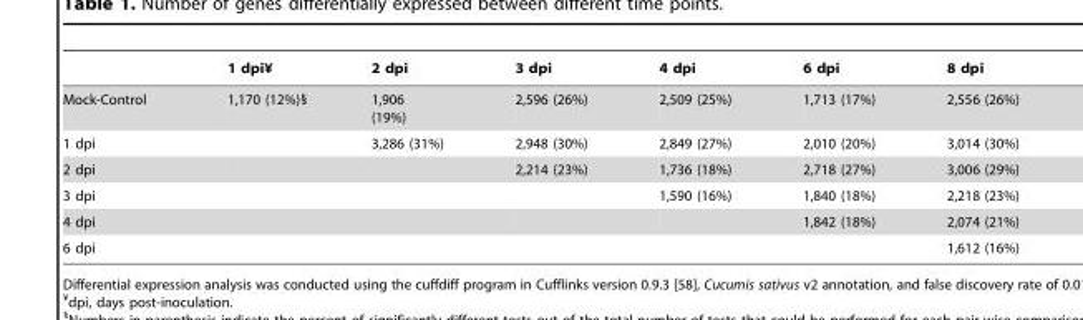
<table><thead><tr><td></td><td>1 dpi¥</td><td>2 dpi</td><td>3 dpi</td><td>4 dpi</td><td>6 dpi</td><td>8 dpi</td></tr></thead><tbody><tr><td>Mock-Control</td><td>1,170 (12%)§</td><td>1,906 (19%)</td><td>2,596 (26%)</td><td>2,509 (25%)</td><td>1,713 (17%)</td><td>2,556 (26%)</td></tr><tr><td>1 dpi</td><td></td><td>3,286 (31%)</td><td>2,948 (30%)</td><td>2,849 (27%)</td><td>2,010 (20%)</td><td>3,014 (30%)</td></tr><tr><td>2 dpi</td><td></td><td></td><td>2,214 (23%)</td><td>1,736 (18%)</td><td>2,718 (27%)</td><td>3,006 (29%)</td></tr><tr><td>3 dpi</td><td></td><td></td><td></td><td>1,590 (16%)</td><td>1,840 (18%)</td><td>2,218 (23%)</td></tr><tr><td>4 dpi</td><td></td><td></td><td></td><td></td><td>1,842 (18%)</td><td>2,074 (21%)</td></tr><tr><td>6 dpi</td><td></td><td></td><td></td><td></td><td></td><td>1,612 (16%)</td></tr></tbody></table>